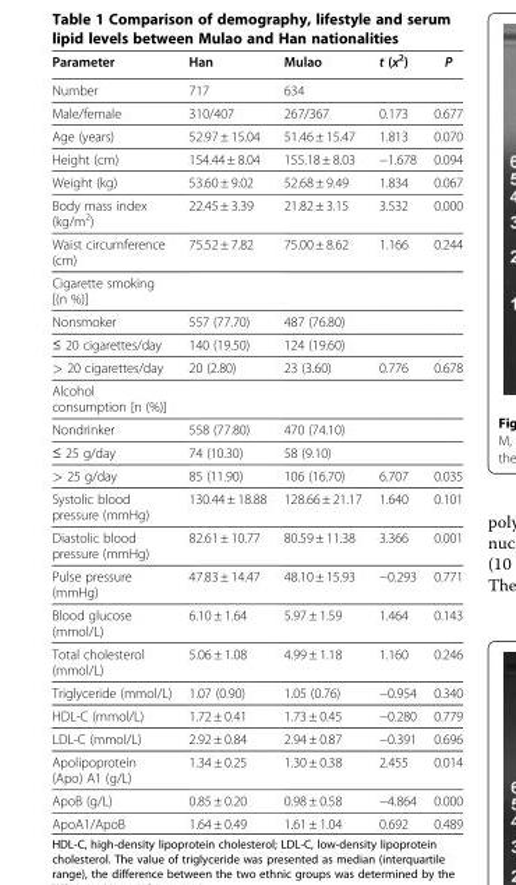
<table><thead><tr><td>Parameter</td><td>Han</td><td>Mulao</td><td>t (x<sup>2</sup>)</td><td>P</td></tr></thead><tbody><tr><td>Number</td><td>717</td><td>634</td><td></td><td></td></tr><tr><td>Male/female</td><td>310/407</td><td>267/367</td><td>0.173</td><td>0.677</td></tr><tr><td>Age (years)</td><td>52.97 ± 15.04</td><td>51.46 ± 15.47</td><td>1.813</td><td>0.070</td></tr><tr><td>Height (cm)</td><td>154.44 ± 8.04</td><td>155.18 ± 8.03</td><td>−1.678</td><td>0.094</td></tr><tr><td>Weight (kg)</td><td>53.60 ± 9.02</td><td>52.68 ± 9.49</td><td>1.834</td><td>0.067</td></tr><tr><td>Body mass index (kg/m<sup>2</sup>)</td><td>22.45 ± 3.39</td><td>21.82 ± 3.15</td><td>3.532</td><td>0.000</td></tr><tr><td>Waist circumference (cm)</td><td>75.52 ± 7.82</td><td>75.00 ± 8.62</td><td>1.166</td><td>0.244</td></tr><tr><td colspan="5">Cigarette smoking [(n %)]</td></tr><tr><td>Nonsmoker</td><td>557 (77.70)</td><td>487 (76.80)</td><td></td><td></td></tr><tr><td>≤ 20 cigarettes/day</td><td>140 (19.50)</td><td>124 (19.60)</td><td></td><td></td></tr><tr><td>&gt; 20 cigarettes/day</td><td>20 (2.80)</td><td>23 (3.60)</td><td>0.776</td><td>0.678</td></tr><tr><td colspan="5">Alcohol consumption [n (%)]</td></tr><tr><td>Nondrinker</td><td>558 (77.80)</td><td>470 (74.10)</td><td></td><td></td></tr><tr><td>≤ 25 g/day</td><td>74 (10.30)</td><td>58 (9.10)</td><td></td><td></td></tr><tr><td>&gt; 25 g/day</td><td>85 (11.90)</td><td>106 (16.70)</td><td>6.707</td><td>0.035</td></tr><tr><td>Systolic blood pressure (mmHg)</td><td>130.44 ± 18.88</td><td>128.66 ± 21.17</td><td>1.640</td><td>0.101</td></tr><tr><td>Diastolic blood pressure (mmHg)</td><td>82.61 ± 10.77</td><td>80.59 ± 11.38</td><td>3.366</td><td>0.001</td></tr><tr><td>Pulse pressure (mmHg)</td><td>47.83 ± 14.47</td><td>48.10 ± 15.93</td><td>−0.293</td><td>0.771</td></tr><tr><td>Blood glucose (mmol/L)</td><td>6.10 ± 1.64</td><td>5.97 ± 1.59</td><td>1.464</td><td>0.143</td></tr><tr><td>Total cholesterol (mmol/L)</td><td>5.06 ± 1.08</td><td>4.99 ± 1.18</td><td>1.160</td><td>0.246</td></tr><tr><td>Triglyceride (mmol/L)</td><td>1.07 (0.90)</td><td>1.05 (0.76)</td><td>−0.954</td><td>0.340</td></tr><tr><td>HDL-C (mmol/L)</td><td>1.72 ± 0.41</td><td>1.73 ± 0.45</td><td>−0.280</td><td>0.779</td></tr><tr><td>LDL-C (mmol/L)</td><td>2.92 ± 0.84</td><td>2.94 ± 0.87</td><td>−0.391</td><td>0.696</td></tr><tr><td>Apolipoprotein (Apo) A1 (g/L)</td><td>1.34 ± 0.25</td><td>1.30 ± 0.38</td><td>2.455</td><td>0.014</td></tr><tr><td>ApoB (g/L)</td><td>0.85 ± 0.20</td><td>0.98 ± 0.58</td><td>−4.864</td><td>0.000</td></tr><tr><td>ApoA1/ApoB</td><td>1.64 ± 0.49</td><td>1.61 ± 1.04</td><td>0.692</td><td>0.489</td></tr></tbody></table>